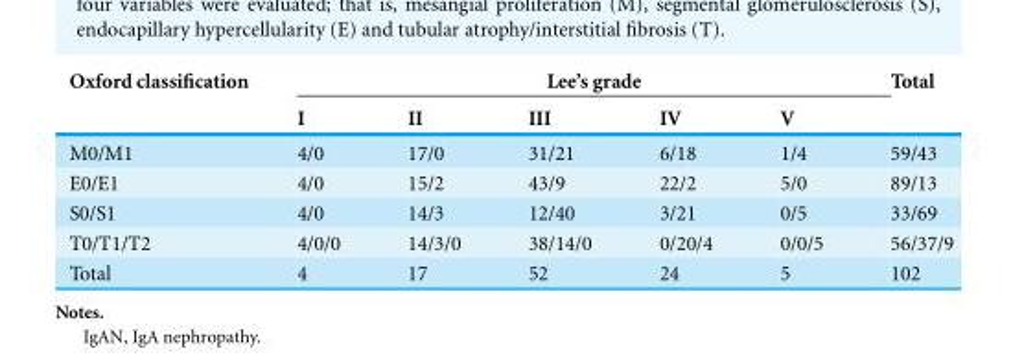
<table><thead><tr><td rowspan="2">Oxford classification</td><td colspan="5">Lee’s grade</td><td rowspan="2">Total</td></tr><tr><td>I</td><td>II</td><td>III</td><td>IV</td><td>V</td></tr></thead><tbody><tr><td>M0/M1</td><td>4/0</td><td>17/0</td><td>31/21</td><td>6/18</td><td>1/4</td><td>59/43</td></tr><tr><td>E0/E1</td><td>4/0</td><td>15/2</td><td>43/9</td><td>22/2</td><td>5/0</td><td>89/13</td></tr><tr><td>S0/S1</td><td>4/0</td><td>14/3</td><td>12/40</td><td>3/21</td><td>0/5</td><td>33/69</td></tr><tr><td>T0/T1/T2</td><td>4/0/0</td><td>14/3/0</td><td>38/14/0</td><td>0/20/4</td><td>0/0/5</td><td>56/37/9</td></tr><tr><td>Total</td><td>4</td><td>17</td><td>52</td><td>24</td><td>5</td><td>102</td></tr></tbody></table>